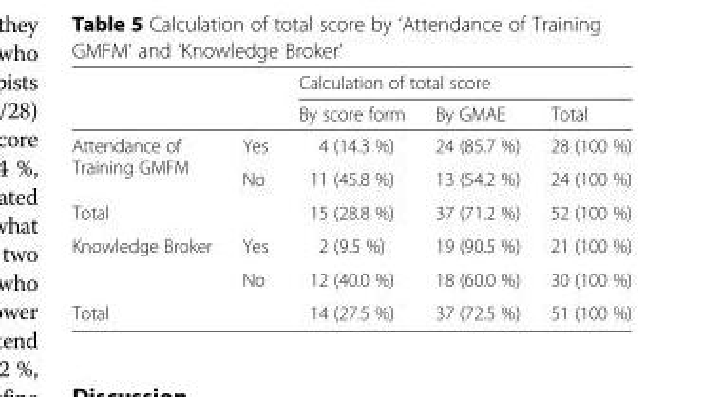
<table><thead><tr><td rowspan="2"></td><td rowspan="2"></td><td colspan="3">Calculation of total score</td></tr><tr><td>By score form</td><td>By GMAE</td><td>Total</td></tr></thead><tbody><tr><td rowspan="2">Attendance of Training GMFM</td><td>Yes</td><td>4 (14.3 %)</td><td>24 (85.7 %)</td><td>28 (100 %)</td></tr><tr><td>No</td><td>11 (45.8 %)</td><td>13 (54.2 %)</td><td>24 (100 %)</td></tr><tr><td colspan="2">Total</td><td>15 (28.8 %)</td><td>37 (71.2 %)</td><td>52 (100 %)</td></tr><tr><td rowspan="2">Knowledge Broker</td><td>Yes</td><td>2 (9.5 %)</td><td>19 (90.5 %)</td><td>21 (100 %)</td></tr><tr><td>No</td><td>12 (40.0 %)</td><td>18 (60.0 %)</td><td>30 (100 %)</td></tr><tr><td colspan="2">Total</td><td>14 (27.5 %)</td><td>37 (72.5 %)</td><td>51 (100 %)</td></tr></tbody></table>